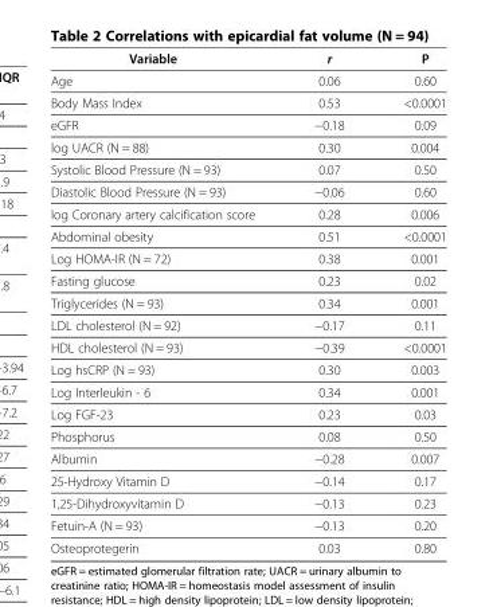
<table><thead><tr><td>Variable</td><td>r</td><td>P</td></tr></thead><tbody><tr><td>Age</td><td>0.06</td><td>0.60</td></tr><tr><td>Body Mass Index</td><td>0.53</td><td>&lt;0.0001</td></tr><tr><td>eGFR</td><td>−0.18</td><td>0.09</td></tr><tr><td>log UACR (N = 88)</td><td>0.30</td><td>0.004</td></tr><tr><td>Systolic Blood Pressure (N = 93)</td><td>0.07</td><td>0.50</td></tr><tr><td>Diastolic Blood Pressure (N = 93)</td><td>−0.06</td><td>0.60</td></tr><tr><td>log Coronary artery calcification score</td><td>0.28</td><td>0.006</td></tr><tr><td>Abdominal obesity</td><td>0.51</td><td>&lt;0.0001</td></tr><tr><td>Log HOMA-IR (N = 72)</td><td>0.38</td><td>0.001</td></tr><tr><td>Fasting glucose</td><td>0.23</td><td>0.02</td></tr><tr><td>Triglycerides (N = 93)</td><td>0.34</td><td>0.001</td></tr><tr><td>LDL cholesterol (N = 92)</td><td>−0.17</td><td>0.11</td></tr><tr><td>HDL cholesterol (N = 93)</td><td>−0.39</td><td>&lt;0.0001</td></tr><tr><td>Log hsCRP (N = 93)</td><td>0.30</td><td>0.003</td></tr><tr><td>Log Interleukin - 6</td><td>0.34</td><td>0.001</td></tr><tr><td>Log FGF-23</td><td>0.23</td><td>0.03</td></tr><tr><td>Phosphorus</td><td>0.08</td><td>0.50</td></tr><tr><td>Albumin</td><td>−0.28</td><td>0.007</td></tr><tr><td>25-Hydroxy Vitamin D</td><td>−0.14</td><td>0.17</td></tr><tr><td>1,25-Dihydroxyvitamin D</td><td>−0.13</td><td>0.23</td></tr><tr><td>Fetuin-A (N = 93)</td><td>−0.13</td><td>0.20</td></tr><tr><td>Osteoprotegerin</td><td>0.03</td><td>0.80</td></tr></tbody></table>